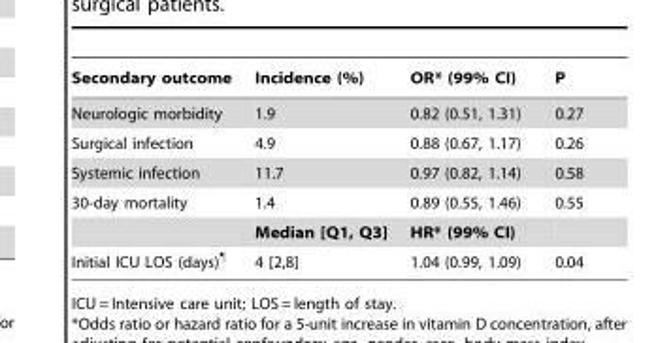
<table><thead><tr><td>Secondary outcome</td><td>Incidence (%)</td><td>OR* (99% CI)</td><td>P</td></tr></thead><tbody><tr><td>Neurologic morbidity</td><td>1.9</td><td>0.82 (0.51, 1.31)</td><td>0.27</td></tr><tr><td>Surgical infection</td><td>4.9</td><td>0.88 (0.67, 1.17)</td><td>0.26</td></tr><tr><td>Systemic infection</td><td>11.7</td><td>0.97 (0.82, 1.14)</td><td>0.58</td></tr><tr><td rowspan="2">30-day mortality</td><td>1.4</td><td>0.89 (0.55, 1.46)</td><td>0.55</td></tr><tr><td>Median [Q1, Q3]</td><td>HR* (99% CI)</td><td></td></tr><tr><td>Initial ICU LOS (days)¶</td><td>4 [2,8]</td><td>1.04 (0.99, 1.09)</td><td>0.04</td></tr></tbody></table>